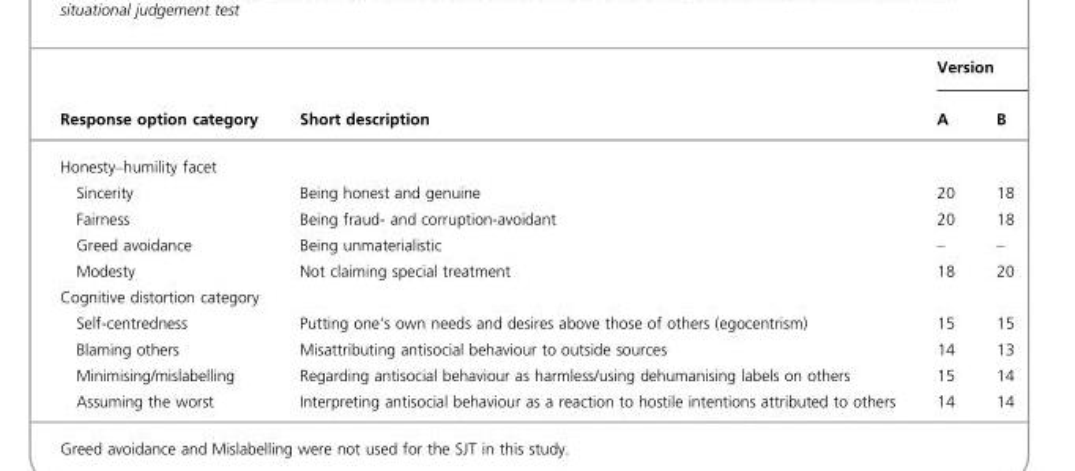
<table><thead><tr><td rowspan="2">Response option category</td><td rowspan="2">Short description</td><td colspan="2">Version</td></tr><tr><td>A</td><td>B</td></tr></thead><tbody><tr><td colspan="4">Honesty–humility facet</td></tr><tr><td>Sincerity</td><td>Being honest and genuine</td><td>20</td><td>18</td></tr><tr><td>Fairness</td><td>Being fraud- and corruption-avoidant</td><td>20</td><td>18</td></tr><tr><td>Greed avoidance</td><td>Being unmaterialistic</td><td>–</td><td>–</td></tr><tr><td>Modesty</td><td>Not claiming special treatment</td><td>18</td><td>20</td></tr><tr><td colspan="4">Cognitive distortion category</td></tr><tr><td>Self-centredness</td><td>Putting one’s own needs and desires above those of others (egocentrism)</td><td>15</td><td>15</td></tr><tr><td>Blaming others</td><td>Misattributing antisocial behaviour to outside sources</td><td>14</td><td>13</td></tr><tr><td>Minimising/mislabelling</td><td>Regarding antisocial behaviour as harmless/using dehumanising labels on others</td><td>15</td><td>14</td></tr><tr><td>Assuming the worst</td><td>Interpreting antisocial behaviour as a reaction to hostile intentions attributed to others</td><td>14</td><td>14</td></tr></tbody></table>